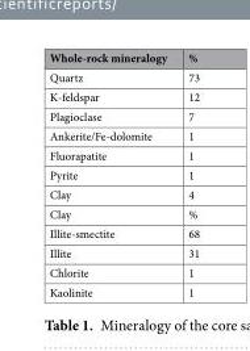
<table><thead><tr><td>Whole-rock mineralogy</td><td>%</td></tr></thead><tbody><tr><td>Quartz</td><td>73</td></tr><tr><td>K-feldspar</td><td>12</td></tr><tr><td>Plagioclase</td><td>7</td></tr><tr><td>Ankerite/Fe-dolomite</td><td>1</td></tr><tr><td>Fluorapatite</td><td>1</td></tr><tr><td>Pyrite</td><td>1</td></tr><tr><td>Clay</td><td>4</td></tr><tr><td>Clay</td><td>%</td></tr><tr><td>Illite-smectite</td><td>68</td></tr><tr><td>Illite</td><td>31</td></tr><tr><td>Chlorite</td><td>1</td></tr><tr><td>Kaolinite</td><td>1</td></tr></tbody></table>